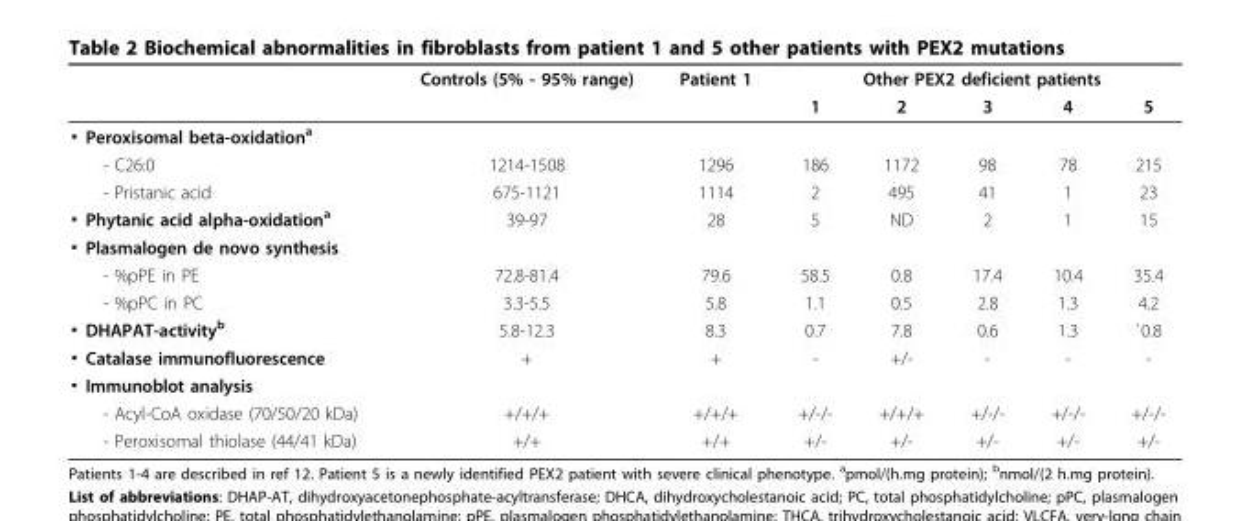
<table><thead><tr><td rowspan="2"></td><td rowspan="2">Controls (5% - 95% range)</td><td rowspan="2">Patient 1</td><td colspan="5">Other PEX2 deficient patients</td></tr><tr><td>1</td><td>2</td><td>3</td><td>4</td><td>5</td></tr></thead><tbody><tr><td colspan="8">▪ Peroxisomal beta-oxidation<sup>a</sup></td></tr><tr><td>- C26:0</td><td>1214-1508</td><td>1296</td><td>186</td><td>1172</td><td>98</td><td>78</td><td>215</td></tr><tr><td>- Pristanic acid</td><td>675-1121</td><td>1114</td><td>2</td><td>495</td><td>41</td><td>1</td><td>23</td></tr><tr><td>▪ Phytanic acid alpha-oxidation<sup>a</sup></td><td>39-97</td><td>28</td><td>5</td><td>ND</td><td>2</td><td>1</td><td>15</td></tr><tr><td colspan="8">▪ Plasmalogen de novo synthesis</td></tr><tr><td>- %pPE in PE</td><td>72.8-81.4</td><td>79.6</td><td>58.5</td><td>0.8</td><td>17.4</td><td>10.4</td><td>35.4</td></tr><tr><td>- %pPC in PC</td><td>3.3-5.5</td><td>5.8</td><td>1.1</td><td>0.5</td><td>2.8</td><td>1.3</td><td>4.2</td></tr><tr><td>▪ DHAPAT-activity<sup>b</sup></td><td>5.8-12.3</td><td>8.3</td><td>0.7</td><td>7.8</td><td>0.6</td><td>1.3</td><td>`0.8</td></tr><tr><td>▪ Catalase immunofluorescence</td><td>+</td><td>+</td><td>-</td><td>+/-</td><td>-</td><td>-</td><td>-</td></tr><tr><td colspan="8">▪ Immunoblot analysis</td></tr><tr><td>- Acyl-CoA oxidase (70/50/20 kDa)</td><td>+/+/+</td><td>+/+/+</td><td>+/-/-</td><td>+/+/+</td><td>+/-/-</td><td>+/-/-</td><td>+/-/-</td></tr><tr><td>- Peroxisomal thiolase (44/41 kDa)</td><td>+/+</td><td>+/+</td><td>+/-</td><td>+/-</td><td>+/-</td><td>+/-</td><td>+/-</td></tr></tbody></table>